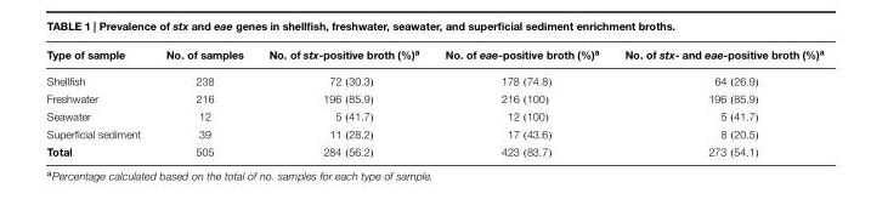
<table><thead><tr><td>Type of sample</td><td>No. of samples</td><td>No. of stx-positive broth (%)<sup>a</sup></td><td>No. of eae-positive broth (%)<sup>a</sup></td><td>No. of stx- and eae-positive broth (%)<sup>a</sup></td></tr></thead><tbody><tr><td>Shellfish</td><td>238</td><td>72 (30.3)</td><td>178 (74.8)</td><td>64 (26.9)</td></tr><tr><td>Freshwater</td><td>216</td><td>196 (85.9)</td><td>216 (100)</td><td>196 (85.9)</td></tr><tr><td>Seawater</td><td>12</td><td>5 (41.7)</td><td>12 (100)</td><td>5 (41.7)</td></tr><tr><td>Superficial sediment</td><td>39</td><td>11 (28.2)</td><td>17 (43.6)</td><td>8 (20.5)</td></tr><tr><td>Total</td><td>505</td><td>284 (56.2)</td><td>423 (83.7)</td><td>273 (54.1)</td></tr></tbody></table>